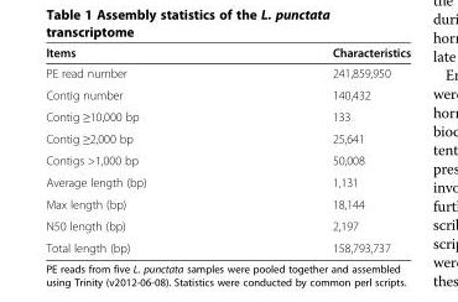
<table><thead><tr><td>Items</td><td>Characteristics</td></tr></thead><tbody><tr><td>PE read number</td><td>241,859,950</td></tr><tr><td>Contig number</td><td>140,432</td></tr><tr><td>Contig ≥10,000 bp</td><td>133</td></tr><tr><td>Contig ≥2,000 bp</td><td>25,641</td></tr><tr><td>Contigs &gt;1,000 bp</td><td>50,008</td></tr><tr><td>Average length (bp)</td><td>1,131</td></tr><tr><td>Max length (bp)</td><td>18,144</td></tr><tr><td>N50 length (bp)</td><td>2,197</td></tr><tr><td>Total length (bp)</td><td>158,793,737</td></tr></tbody></table>